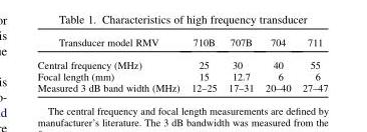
<table><thead><tr><td>Transducer model RMV</td><td>710B</td><td>707B</td><td>704</td><td>711</td></tr></thead><tbody><tr><td>Central frequency (MHz)</td><td>25</td><td>30</td><td>40</td><td>55</td></tr><tr><td>Focal length (mm)</td><td>15</td><td>12.7</td><td>6</td><td>6</td></tr><tr><td>Measured 3 dB band width (MHz)</td><td>12–25</td><td>17–31</td><td>20–40</td><td>27–47</td></tr></tbody></table>